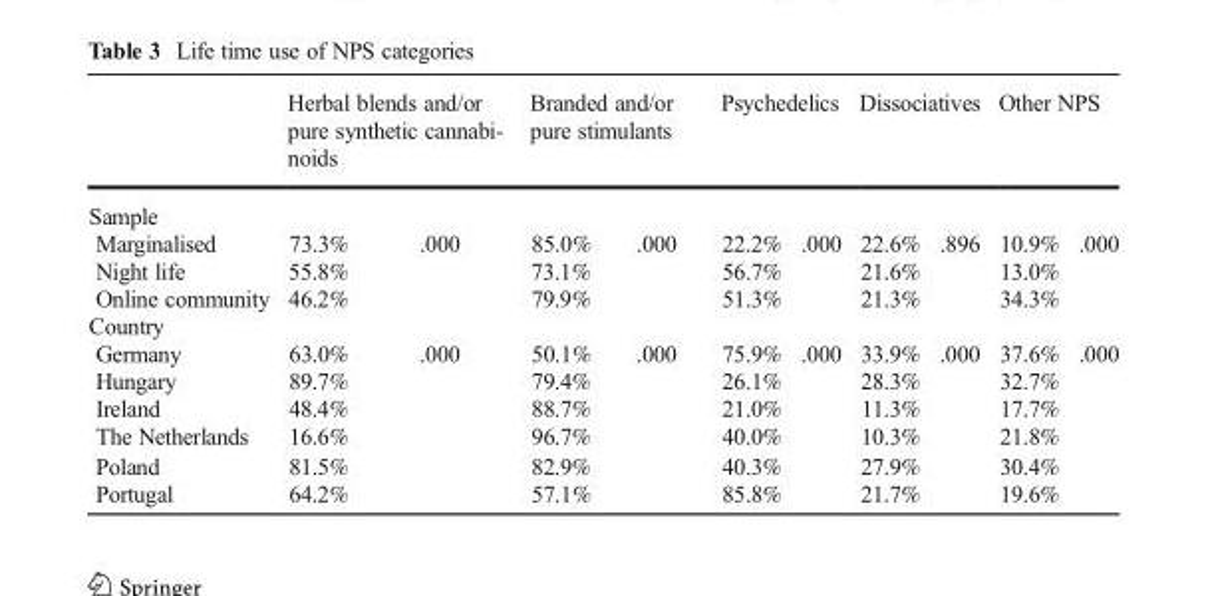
<table><thead><tr><td></td><td colspan="2">Herbal blends and/or pure synthetic cannabi- noids</td><td colspan="2">Branded and/or pure stimulants</td><td colspan="2">Psychedelics</td><td colspan="2">Dissociatives</td><td colspan="2">Other NPS</td></tr><tr><td colspan="11">Sample</td></tr><tr><td>Marginalised</td><td>73.3%</td><td>.000</td><td>85.0%</td><td>.000</td><td>22.2%</td><td>.000</td><td>22.6%</td><td>.896</td><td>10.9%</td><td>.000</td></tr></thead><tbody><tr><td>Night life</td><td>55.8%</td><td></td><td>73.1%</td><td></td><td>56.7%</td><td></td><td>21.6%</td><td></td><td>13.0%</td><td></td></tr><tr><td>Online community</td><td>46.2%</td><td></td><td>79.9%</td><td></td><td>51.3%</td><td></td><td>21.3%</td><td></td><td>34.3%</td><td></td></tr><tr><td colspan="11">Country</td></tr><tr><td>Germany</td><td>63.0%</td><td>.000</td><td>50.1%</td><td>.000</td><td>75.9%</td><td>.000</td><td>33.9%</td><td>.000</td><td>37.6%</td><td>.000</td></tr><tr><td>Hungary</td><td>89.7%</td><td></td><td>79.4%</td><td></td><td>26.1%</td><td></td><td>28.3%</td><td></td><td>32.7%</td><td></td></tr><tr><td>Ireland</td><td>48.4%</td><td></td><td>88.7%</td><td></td><td>21.0%</td><td></td><td>11.3%</td><td></td><td>17.7%</td><td></td></tr><tr><td>The Netherlands</td><td>16.6%</td><td></td><td>96.7%</td><td></td><td>40.0%</td><td></td><td>10.3%</td><td></td><td>21.8%</td><td></td></tr><tr><td>Poland</td><td>81.5%</td><td></td><td>82.9%</td><td></td><td>40.3%</td><td></td><td>27.9%</td><td></td><td>30.4%</td><td></td></tr><tr><td>Portugal</td><td>64.2%</td><td></td><td>57.1%</td><td></td><td>85.8%</td><td></td><td>21.7%</td><td></td><td>19.6%</td><td></td></tr></tbody></table>